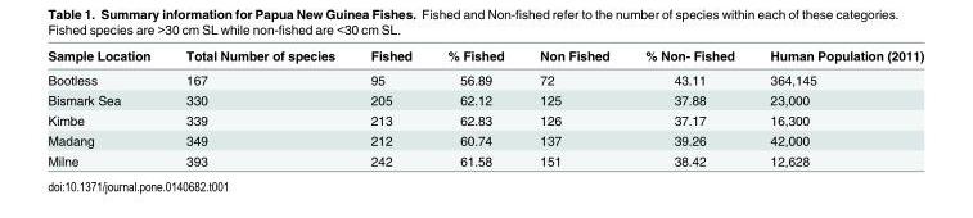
<table><thead><tr><td>Sample Location</td><td>Total Number of species</td><td>Fished</td><td>% Fished</td><td>Non Fished</td><td>% Non- Fished</td><td>Human Population (2011)</td></tr></thead><tbody><tr><td>Bootless</td><td>167</td><td>95</td><td>56.89</td><td>72</td><td>43.11</td><td>364,145</td></tr><tr><td>Bismark Sea</td><td>330</td><td>205</td><td>62.12</td><td>125</td><td>37.88</td><td>23,000</td></tr><tr><td>Kimbe</td><td>339</td><td>213</td><td>62.83</td><td>126</td><td>37.17</td><td>16,300</td></tr><tr><td>Madang</td><td>349</td><td>212</td><td>60.74</td><td>137</td><td>39.26</td><td>42,000</td></tr><tr><td>Milne</td><td>393</td><td>242</td><td>61.58</td><td>151</td><td>38.42</td><td>12,628</td></tr></tbody></table>